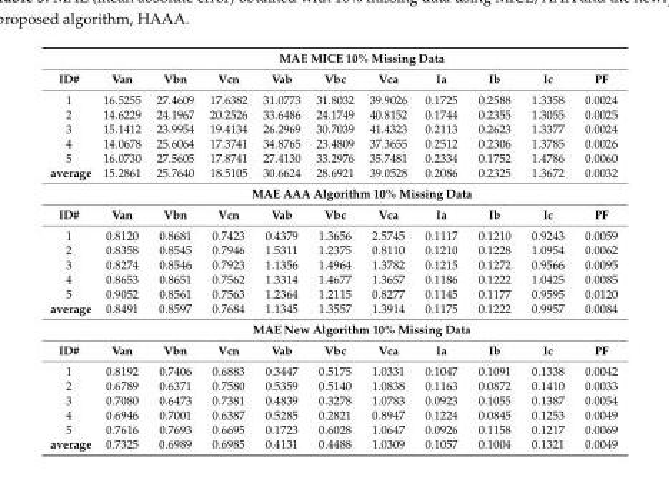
<table><thead><tr><td rowspan="2">ID#</td><td colspan="10">MAE MICE 10% Missing Data</td></tr><tr><td>Van</td><td>Vbn</td><td>Vcn</td><td>Vab</td><td>Vbc</td><td>Vca</td><td>Ia</td><td>Ib</td><td>Ic</td><td>PF</td></tr></thead><tbody><tr><td>1</td><td>16.5255</td><td>27.4609</td><td>17.6382</td><td>31.0773</td><td>31.8032</td><td>39.9026</td><td>0.1725</td><td>0.2588</td><td>1.3358</td><td>0.0024</td></tr><tr><td>2</td><td>14.6229</td><td>24.1967</td><td>20.2526</td><td>33.6486</td><td>24.1749</td><td>40.8152</td><td>0.1744</td><td>0.2355</td><td>1.3055</td><td>0.0025</td></tr><tr><td>3</td><td>15.1412</td><td>23.9954</td><td>19.4134</td><td>26.2969</td><td>30.7039</td><td>41.4323</td><td>0.2113</td><td>0.2623</td><td>1.3377</td><td>0.0024</td></tr><tr><td>4</td><td>14.0678</td><td>25.6064</td><td>17.3741</td><td>34.8765</td><td>23.4809</td><td>37.3655</td><td>0.2512</td><td>0.2306</td><td>1.3785</td><td>0.0026</td></tr><tr><td>5</td><td>16.0730</td><td>27.5605</td><td>17.8741</td><td>27.4130</td><td>33.2976</td><td>35.7481</td><td>0.2334</td><td>0.1752</td><td>1.4786</td><td>0.0060</td></tr><tr><td rowspan="2">average</td><td>15.2861</td><td>25.7640</td><td>18.5105</td><td>30.6624</td><td>28.6921</td><td>39.0528</td><td>0.2086</td><td>0.2325</td><td>1.3672</td><td>0.0032</td></tr><tr><td colspan="10">MAE AAA Algorithm 10% Missing Data</td></tr><tr><td>ID#</td><td>Van</td><td>Vbn</td><td>Vcn</td><td>Vab</td><td>Vbc</td><td>Vca</td><td>Ia</td><td>Ib</td><td>Ic</td><td>PF</td></tr><tr><td>1</td><td>0.8120</td><td>0.8681</td><td>0.7423</td><td>0.4379</td><td>1.3656</td><td>2.5745</td><td>0.1117</td><td>0.1210</td><td>0.9243</td><td>0.0059</td></tr><tr><td>2</td><td>0.8358</td><td>0.8545</td><td>0.7946</td><td>1.5311</td><td>1.2375</td><td>0.8110</td><td>0.1210</td><td>0.1228</td><td>1.0954</td><td>0.0062</td></tr><tr><td>3</td><td>0.8274</td><td>0.8546</td><td>0.7923</td><td>1.1356</td><td>1.4964</td><td>1.3782</td><td>0.1215</td><td>0.1272</td><td>0.9566</td><td>0.0095</td></tr><tr><td>4</td><td>0.8653</td><td>0.8651</td><td>0.7562</td><td>1.3314</td><td>1.4677</td><td>1.3657</td><td>0.1186</td><td>0.1222</td><td>1.0425</td><td>0.0085</td></tr><tr><td>5</td><td>0.9052</td><td>0.8561</td><td>0.7563</td><td>1.2364</td><td>1.2115</td><td>0.8277</td><td>0.1145</td><td>0.1177</td><td>0.9595</td><td>0.0120</td></tr><tr><td rowspan="2">average</td><td>0.8491</td><td>0.8597</td><td>0.7684</td><td>1.1345</td><td>1.3557</td><td>1.3914</td><td>0.1175</td><td>0.1222</td><td>0.9957</td><td>0.0084</td></tr><tr><td colspan="10">MAE New Algorithm 10% Missing Data</td></tr><tr><td>ID#</td><td>Van</td><td>Vbn</td><td>Vcn</td><td>Vab</td><td>Vbc</td><td>Vca</td><td>Ia</td><td>Ib</td><td>Ic</td><td>PF</td></tr><tr><td>1</td><td>0.8192</td><td>0.7406</td><td>0.6883</td><td>0.3447</td><td>0.5175</td><td>1.0331</td><td>0.1047</td><td>0.1091</td><td>0.1338</td><td>0.0042</td></tr><tr><td>2</td><td>0.6789</td><td>0.6371</td><td>0.7580</td><td>0.5359</td><td>0.5140</td><td>1.0838</td><td>0.1163</td><td>0.0872</td><td>0.1410</td><td>0.0033</td></tr><tr><td>3</td><td>0.7080</td><td>0.6473</td><td>0.7381</td><td>0.4839</td><td>0.3278</td><td>1.0783</td><td>0.0923</td><td>0.1055</td><td>0.1387</td><td>0.0054</td></tr><tr><td>4</td><td>0.6946</td><td>0.7001</td><td>0.6387</td><td>0.5285</td><td>0.2821</td><td>0.8947</td><td>0.1224</td><td>0.0845</td><td>0.1253</td><td>0.0049</td></tr><tr><td>5</td><td>0.7616</td><td>0.7693</td><td>0.6695</td><td>0.1723</td><td>0.6028</td><td>1.0647</td><td>0.0926</td><td>0.1158</td><td>0.1217</td><td>0.0069</td></tr><tr><td>average</td><td>0.7325</td><td>0.6989</td><td>0.6985</td><td>0.4131</td><td>0.4488</td><td>1.0309</td><td>0.1057</td><td>0.1004</td><td>0.1321</td><td>0.0049</td></tr></tbody></table>